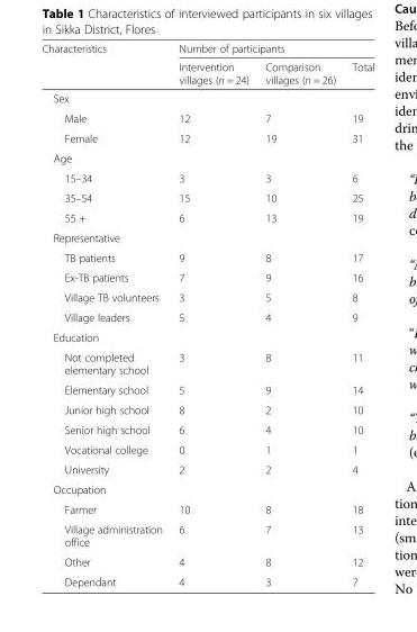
<table><thead><tr><td rowspan="2">Characteristics</td><td colspan="3">Number of participants</td></tr><tr><td>Intervention villages (n = 24)</td><td>Comparison villages (n = 26)</td><td>Total</td></tr></thead><tbody><tr><td colspan="4">Sex</td></tr><tr><td>Male</td><td>12</td><td>7</td><td>19</td></tr><tr><td>Female</td><td>12</td><td>19</td><td>31</td></tr><tr><td colspan="4">Age</td></tr><tr><td>15–34</td><td>3</td><td>3</td><td>6</td></tr><tr><td>35–54</td><td>15</td><td>10</td><td>25</td></tr><tr><td>55 +</td><td>6</td><td>13</td><td>19</td></tr><tr><td colspan="4">Representative</td></tr><tr><td>TB patients</td><td>9</td><td>8</td><td>17</td></tr><tr><td>Ex-TB patients</td><td>7</td><td>9</td><td>16</td></tr><tr><td>Village TB volunteers</td><td>3</td><td>5</td><td>8</td></tr><tr><td>Village leaders</td><td>5</td><td>4</td><td>9</td></tr><tr><td colspan="4">Education</td></tr><tr><td>Not completed elementary school</td><td>3</td><td>8</td><td>11</td></tr><tr><td>Elementary school</td><td>5</td><td>9</td><td>14</td></tr><tr><td>Junior high school</td><td>8</td><td>2</td><td>10</td></tr><tr><td>Senior high school</td><td>6</td><td>4</td><td>10</td></tr><tr><td>Vocational college</td><td>0</td><td>1</td><td>1</td></tr><tr><td>University</td><td>2</td><td>2</td><td>4</td></tr><tr><td colspan="4">Occupation</td></tr><tr><td>Farmer</td><td>10</td><td>8</td><td>18</td></tr><tr><td>Village administration office</td><td>6</td><td>7</td><td>13</td></tr><tr><td>Other</td><td>4</td><td>8</td><td>12</td></tr><tr><td>Dependant</td><td>4</td><td>3</td><td>7</td></tr></tbody></table>